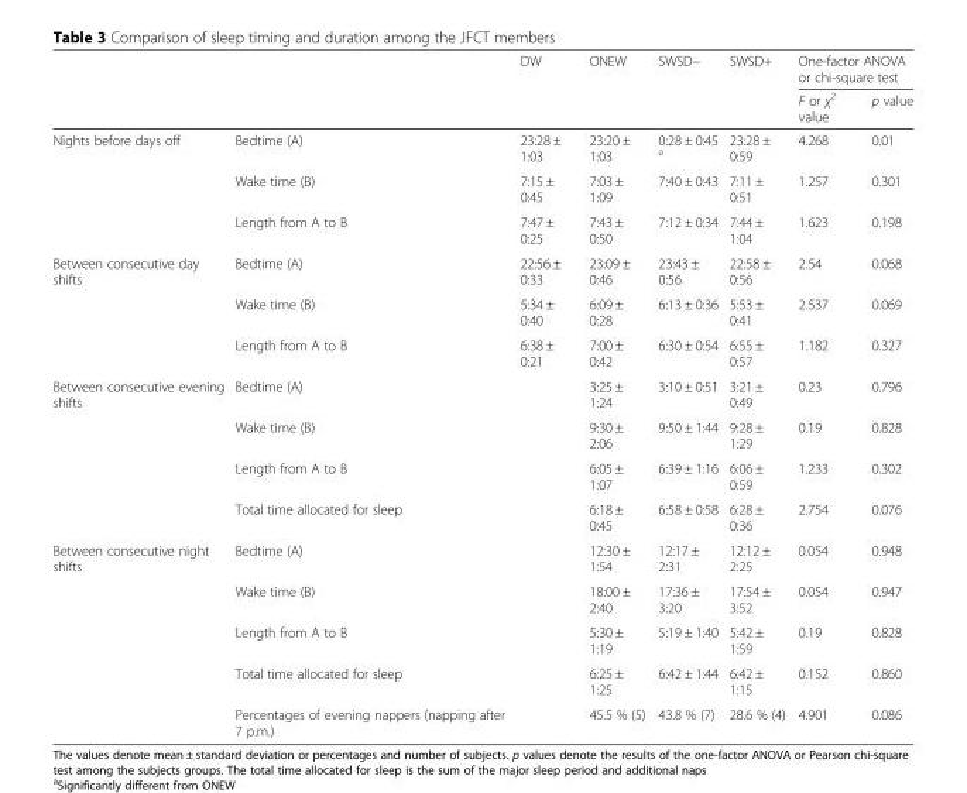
<table><thead><tr><td rowspan="2"></td><td rowspan="2"></td><td rowspan="2">DW</td><td rowspan="2">ONEW</td><td rowspan="2">SWSD−</td><td rowspan="2">SWSD+</td><td colspan="2">One-factor ANOVA or chi-square test</td></tr><tr><td>F or χ<sup>2</sup> value</td><td>p value</td></tr></thead><tbody><tr><td rowspan="3">Nights before days off</td><td>Bedtime (A)</td><td>23:28 ± 1:03</td><td>23:20 ± 1:03</td><td>0:28 ± 0:45 <sup>a</sup></td><td>23:28 ± 0:59</td><td>4.268</td><td>0.01</td></tr><tr><td>Wake time (B)</td><td>7:15 ± 0:45</td><td>7:03 ± 1:09</td><td>7:40 ± 0:43</td><td>7:11 ± 0:51</td><td>1.257</td><td>0.301</td></tr><tr><td>Length from A to B</td><td>7:47 ± 0:25</td><td>7:43 ± 0:50</td><td>7:12 ± 0:34</td><td>7:44 ± 1:04</td><td>1.623</td><td>0.198</td></tr><tr><td rowspan="3">Between consecutive day shifts</td><td>Bedtime (A)</td><td>22:56 ± 0:33</td><td>23:09 ± 0:46</td><td>23:43 ± 0:56</td><td>22:58 ± 0:56</td><td>2.54</td><td>0.068</td></tr><tr><td>Wake time (B)</td><td>5:34 ± 0:40</td><td>6:09 ± 0:28</td><td>6:13 ± 0:36</td><td>5:53 ± 0:41</td><td>2.537</td><td>0.069</td></tr><tr><td>Length from A to B</td><td>6:38 ± 0:21</td><td>7:00 ± 0:42</td><td>6:30 ± 0:54</td><td>6:55 ± 0:57</td><td>1.182</td><td>0.327</td></tr><tr><td rowspan="4">Between consecutive evening shifts</td><td>Bedtime (A)</td><td></td><td>3:25 ± 1:24</td><td>3:10 ± 0:51</td><td>3:21 ± 0:49</td><td>0.23</td><td>0.796</td></tr><tr><td>Wake time (B)</td><td></td><td>9:30 ± 2:06</td><td>9:50 ± 1:44</td><td>9:28 ± 1:29</td><td>0.19</td><td>0.828</td></tr><tr><td>Length from A to B</td><td></td><td>6:05 ± 1:07</td><td>6:39 ± 1:16</td><td>6:06 ± 0:59</td><td>1.233</td><td>0.302</td></tr><tr><td>Total time allocated for sleep</td><td></td><td>6:18 ± 0:45</td><td>6:58 ± 0:58</td><td>6:28 ± 0:36</td><td>2.754</td><td>0.076</td></tr><tr><td rowspan="5">Between consecutive night shifts</td><td>Bedtime (A)</td><td></td><td>12:30 ± 1:54</td><td>12:17 ± 2:31</td><td>12:12 ± 2:25</td><td>0.054</td><td>0.948</td></tr><tr><td>Wake time (B)</td><td></td><td>18:00 ± 2:40</td><td>17:36 ± 3:20</td><td>17:54 ± 3:52</td><td>0.054</td><td>0.947</td></tr><tr><td>Length from A to B</td><td></td><td>5:30 ± 1:19</td><td>5:19 ± 1:40</td><td>5:42 ± 1:59</td><td>0.19</td><td>0.828</td></tr><tr><td>Total time allocated for sleep</td><td></td><td>6:25 ± 1:25</td><td>6:42 ± 1:44</td><td>6:42 ± 1:15</td><td>0.152</td><td>0.860</td></tr><tr><td>Percentages of evening nappers (napping after 7 p.m.)</td><td></td><td>45.5 % (5)</td><td>43.8 % (7)</td><td>28.6 % (4)</td><td>4.901</td><td>0.086</td></tr></tbody></table>